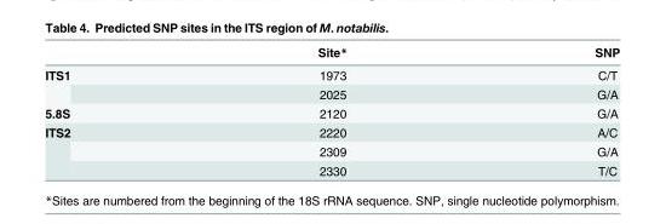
<table><thead><tr><td></td><td>Site*</td><td>SNP</td></tr></thead><tbody><tr><td rowspan="2">ITS1</td><td>1973</td><td>C/T</td></tr><tr><td>2025</td><td>G/A</td></tr><tr><td>5.8S</td><td>2120</td><td>G/A</td></tr><tr><td rowspan="3">ITS2</td><td>2220</td><td>A/C</td></tr><tr><td>2309</td><td>G/A</td></tr><tr><td>2330</td><td>T/C</td></tr></tbody></table>